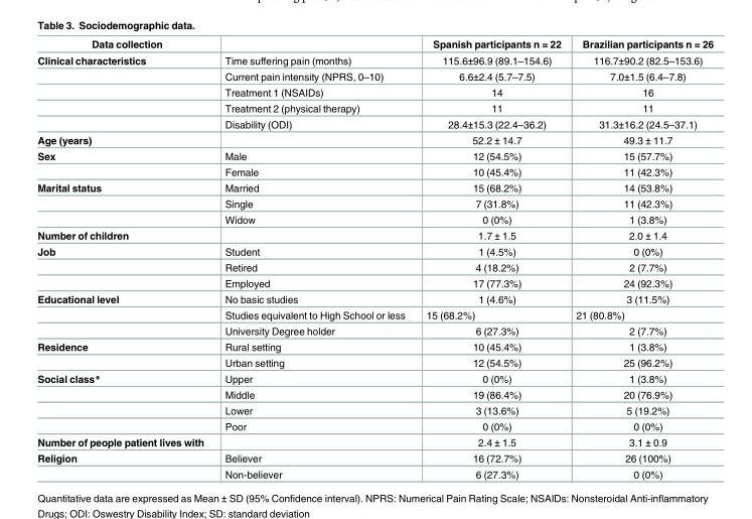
<table><thead><tr><td>Data collection</td><td></td><td>Spanish participants n = 22</td><td>Brazilian participants n = 26</td></tr></thead><tbody><tr><td rowspan="5">Clinical characteristics</td><td>Time suffering pain (months)</td><td>115.6±96.9 (89.1–154.6)</td><td>116.7±90.2 (82.5–153.6)</td></tr><tr><td>Current pain intensity (NPRS, 0–10)</td><td>6.6±2.4 (5.7–7.5)</td><td>7.0±1.5 (6.4–7.8)</td></tr><tr><td>Treatment 1 (NSAIDs)</td><td>14</td><td>16</td></tr><tr><td>Treatment 2 (physical therapy)</td><td>11</td><td>11</td></tr><tr><td>Disability (ODI)</td><td>28.4±15.3 (22.4–36.2)</td><td>31.3±16.2 (24.5–37.1)</td></tr><tr><td>Age (years)</td><td></td><td>52.2 ± 14.7</td><td>49.3 ± 11.7</td></tr><tr><td rowspan="2">Sex</td><td>Male</td><td>12 (54.5%)</td><td>15 (57.7%)</td></tr><tr><td>Female</td><td>10 (45.4%)</td><td>11 (42.3%)</td></tr><tr><td rowspan="3">Marital status</td><td>Married</td><td>15 (68.2%)</td><td>14 (53.8%)</td></tr><tr><td>Single</td><td>7 (31.8%)</td><td>11 (42.3%)</td></tr><tr><td>Widow</td><td>0 (0%)</td><td>1 (3.8%)</td></tr><tr><td>Number of children</td><td></td><td>1.7 ± 1.5</td><td>2.0 ± 1.4</td></tr><tr><td rowspan="3">Job</td><td>Student</td><td>1 (4.5%)</td><td>0 (0%)</td></tr><tr><td>Retired</td><td>4 (18.2%)</td><td>2 (7.7%)</td></tr><tr><td>Employed</td><td>17 (77.3%)</td><td>24 (92.3%)</td></tr><tr><td rowspan="3">Educational level</td><td>No basic studies</td><td>1 (4.6%)</td><td>3 (11.5%)</td></tr><tr><td>Studies equivalent to High School or less</td><td>15 (68.2%)</td><td>21 (80.8%)</td></tr><tr><td>University Degree holder</td><td>6 (27.3%)</td><td>2 (7.7%)</td></tr><tr><td rowspan="2">Residence</td><td>Rural setting</td><td>10 (45.4%)</td><td>1 (3.8%)</td></tr><tr><td>Urban setting</td><td>12 (54.5%)</td><td>25 (96.2%)</td></tr><tr><td rowspan="4">Social class*</td><td>Upper</td><td>0 (0%)</td><td>1 (3.8%)</td></tr><tr><td>Middle</td><td>19 (86.4%)</td><td>20 (76.9%)</td></tr><tr><td>Lower</td><td>3 (13.6%)</td><td>5 (19.2%)</td></tr><tr><td>Poor</td><td>0 (0%)</td><td>0 (0%)</td></tr><tr><td>Number of people patient lives with</td><td></td><td>2.4 ± 1.5</td><td>3.1 ± 0.9</td></tr><tr><td rowspan="2">Religion</td><td>Believer</td><td>16 (72.7%)</td><td>26 (100%)</td></tr><tr><td>Non-believer</td><td>6 (27.3%)</td><td>0 (0%)</td></tr></tbody></table>